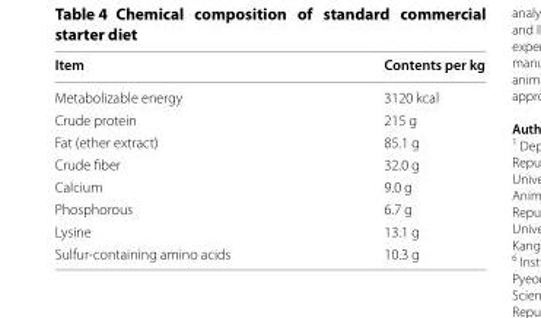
<table><thead><tr><td>Item</td><td>Contents per kg</td></tr></thead><tbody><tr><td>Metabolizable energy</td><td>3120 kcal</td></tr><tr><td>Crude protein</td><td>215 g</td></tr><tr><td>Fat (ether extract)</td><td>85.1 g</td></tr><tr><td>Crude fiber</td><td>32.0 g</td></tr><tr><td>Calcium</td><td>9.0 g</td></tr><tr><td>Phosphorous</td><td>6.7 g</td></tr><tr><td>Lysine</td><td>13.1 g</td></tr><tr><td>Sulfur‑containing amino acids</td><td>10.3 g</td></tr></tbody></table>